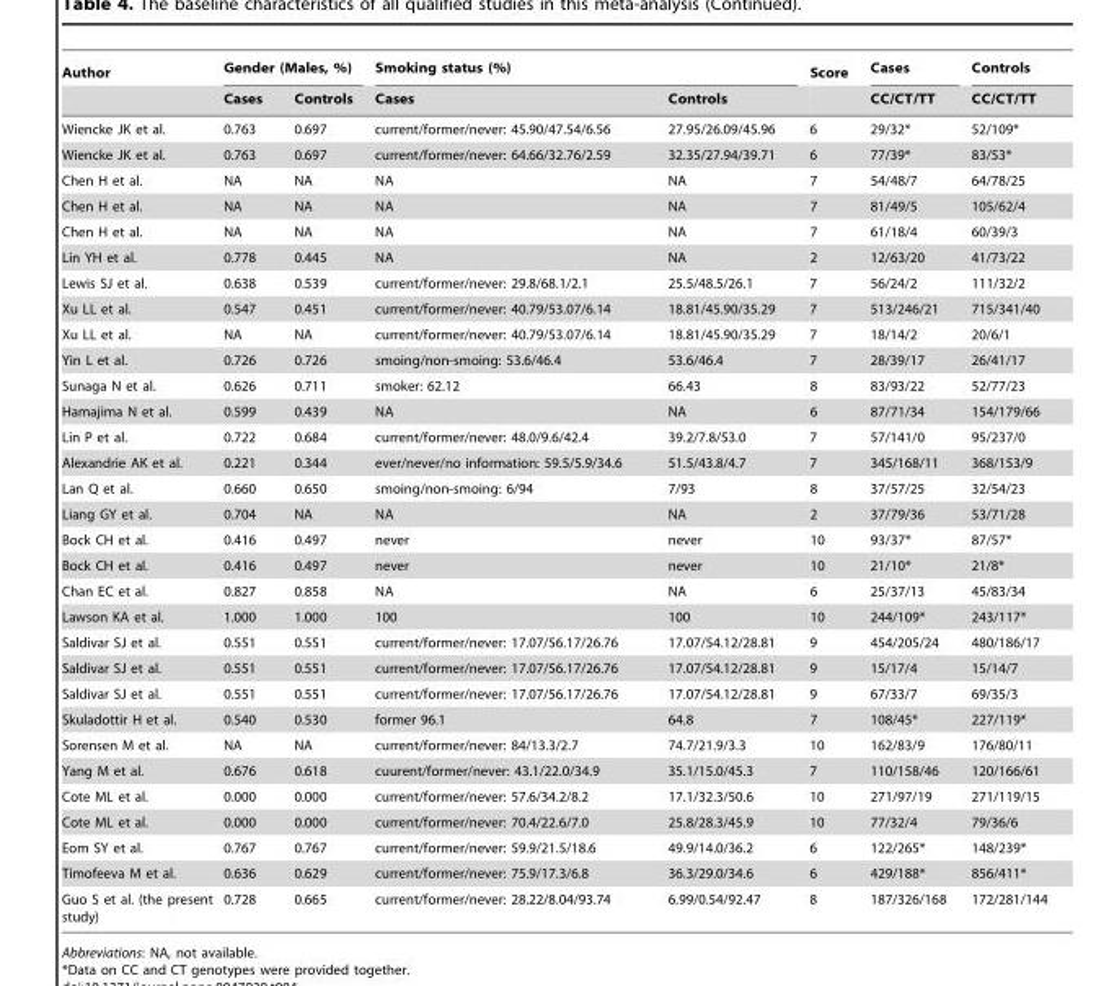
<table><thead><tr><td rowspan="2">Author</td><td colspan="2">Gender (Males, %)</td><td colspan="2">Smoking status (%)</td><td rowspan="2">Score</td><td rowspan="2">Cases CC/CT/TT</td><td rowspan="2">Controls CC/CT/TT</td></tr><tr><td>Cases</td><td>Controls</td><td>Cases</td><td>Controls</td></tr></thead><tbody><tr><td>Wiencke JK et al.</td><td>0.763</td><td>0.697</td><td>current/former/never: 45.90/47.54/6.56</td><td>27.95/26.09/45.96</td><td>6</td><td>29/32*</td><td>52/109*</td></tr><tr><td>Wiencke JK et al.</td><td>0.763</td><td>0.697</td><td>current/former/never: 64.66/32.76/2.59</td><td>32.35/27.94/39.71</td><td>6</td><td>77/39*</td><td>83/53*</td></tr><tr><td>Chen H et al.</td><td>NA</td><td>NA</td><td>NA</td><td>NA</td><td>7</td><td>54/48/7</td><td>64/78/25</td></tr><tr><td>Chen H et al.</td><td>NA</td><td>NA</td><td>NA</td><td>NA</td><td>7</td><td>81/49/5</td><td>105/62/4</td></tr><tr><td>Chen H et al.</td><td>NA</td><td>NA</td><td>NA</td><td>NA</td><td>7</td><td>61/18/4</td><td>60/39/3</td></tr><tr><td>Lin YH et al.</td><td>0.778</td><td>0.445</td><td>NA</td><td>NA</td><td>2</td><td>12/63/20</td><td>41/73/22</td></tr><tr><td>Lewis SJ et al.</td><td>0.638</td><td>0.539</td><td>current/former/never: 29.8/68.1/2.1</td><td>25.5/48.5/26.1</td><td>7</td><td>56/24/2</td><td>111/32/2</td></tr><tr><td>Xu LL et al.</td><td>0.547</td><td>0.451</td><td>current/former/never: 40.79/53.07/6.14</td><td>18.81/45.90/35.29</td><td>7</td><td>513/246/21</td><td>715/341/40</td></tr><tr><td>Xu LL et al.</td><td>NA</td><td>NA</td><td>current/former/never: 40.79/53.07/6.14</td><td>18.81/45.90/35.29</td><td>7</td><td>18/14/2</td><td>20/6/1</td></tr><tr><td>Yin L et al.</td><td>0.726</td><td>0.726</td><td>smoing/non-smoing: 53.6/46.4</td><td>53.6/46.4</td><td>7</td><td>28/39/17</td><td>26/41/17</td></tr><tr><td>Sunaga N et al.</td><td>0.626</td><td>0.711</td><td>smoker: 62.12</td><td>66.43</td><td>8</td><td>83/93/22</td><td>52/77/23</td></tr><tr><td>Hamajima N et al.</td><td>0.599</td><td>0.439</td><td>NA</td><td>NA</td><td>6</td><td>87/71/34</td><td>154/179/66</td></tr><tr><td>Lin P et al.</td><td>0.722</td><td>0.684</td><td>current/former/never: 48.0/9.6/42.4</td><td>39.2/7.8/53.0</td><td>7</td><td>57/141/0</td><td>95/237/0</td></tr><tr><td>Alexandrie AK et al.</td><td>0.221</td><td>0.344</td><td>ever/never/no information: 59.5/5.9/34.6</td><td>51.5/43.8/4.7</td><td>7</td><td>345/168/11</td><td>368/153/9</td></tr><tr><td>Lan Q et al.</td><td>0.660</td><td>0.650</td><td>smoing/non-smoing: 6/94</td><td>7/93</td><td>8</td><td>37/57/25</td><td>32/54/23</td></tr><tr><td>Liang GY et al.</td><td>0.704</td><td>NA</td><td>NA</td><td>NA</td><td>2</td><td>37/79/36</td><td>53/71/28</td></tr><tr><td>Bock CH et al.</td><td>0.416</td><td>0.497</td><td>never</td><td>never</td><td>10</td><td>93/37*</td><td>87/57*</td></tr><tr><td>Bock CH et al.</td><td>0.416</td><td>0.497</td><td>never</td><td>never</td><td>10</td><td>21/10*</td><td>21/8*</td></tr><tr><td>Chan EC et al.</td><td>0.827</td><td>0.858</td><td>NA</td><td>NA</td><td>6</td><td>25/37/13</td><td>45/83/34</td></tr><tr><td>Lawson KA et al.</td><td>1.000</td><td>1.000</td><td>100</td><td>100</td><td>10</td><td>244/109*</td><td>243/117*</td></tr><tr><td>Saldivar SJ et al.</td><td>0.551</td><td>0.551</td><td>current/former/never: 17.07/56.17/26.76</td><td>17.07/54.12/28.81</td><td>9</td><td>454/205/24</td><td>480/186/17</td></tr><tr><td>Saldivar SJ et al.</td><td>0.551</td><td>0.551</td><td>current/former/never: 17.07/56.17/26.76</td><td>17.07/54.12/28.81</td><td>9</td><td>15/17/4</td><td>15/14/7</td></tr><tr><td>Saldivar SJ et al.</td><td>0.551</td><td>0.551</td><td>current/former/never: 17.07/56.17/26.76</td><td>17.07/54.12/28.81</td><td>9</td><td>67/33/7</td><td>69/35/3</td></tr><tr><td>Skuladottir H et al.</td><td>0.540</td><td>0.530</td><td>former 96.1</td><td>64.8</td><td>7</td><td>108/45*</td><td>227/119*</td></tr><tr><td>Sorensen M et al.</td><td>NA</td><td>NA</td><td>current/former/never: 84/13.3/2.7</td><td>74.7/21.9/3.3</td><td>10</td><td>162/83/9</td><td>176/80/11</td></tr><tr><td>Yang M et al.</td><td>0.676</td><td>0.618</td><td>cuurent/former/never: 43.1/22.0/34.9</td><td>35.1/15.0/45.3</td><td>7</td><td>110/158/46</td><td>120/166/61</td></tr><tr><td>Cote ML et al.</td><td>0.000</td><td>0.000</td><td>current/former/never: 57.6/34.2/8.2</td><td>17.1/32.3/50.6</td><td>10</td><td>271/97/19</td><td>271/119/15</td></tr><tr><td>Cote ML et al.</td><td>0.000</td><td>0.000</td><td>current/former/never: 70.4/22.6/7.0</td><td>25.8/28.3/45.9</td><td>10</td><td>77/32/4</td><td>79/36/6</td></tr><tr><td>Eom SY et al.</td><td>0.767</td><td>0.767</td><td>current/former/never: 59.9/21.5/18.6</td><td>49.9/14.0/36.2</td><td>6</td><td>122/265*</td><td>148/239*</td></tr><tr><td>Timofeeva M et al.</td><td>0.636</td><td>0.629</td><td>current/former/never: 75.9/17.3/6.8</td><td>36.3/29.0/34.6</td><td>6</td><td>429/188*</td><td>856/411*</td></tr><tr><td>Guo S et al. (the present study)</td><td>0.728</td><td>0.665</td><td>current/former/never: 28.22/8.04/93.74</td><td>6.99/0.54/92.47</td><td>8</td><td>187/326/168</td><td>172/281/144</td></tr></tbody></table>